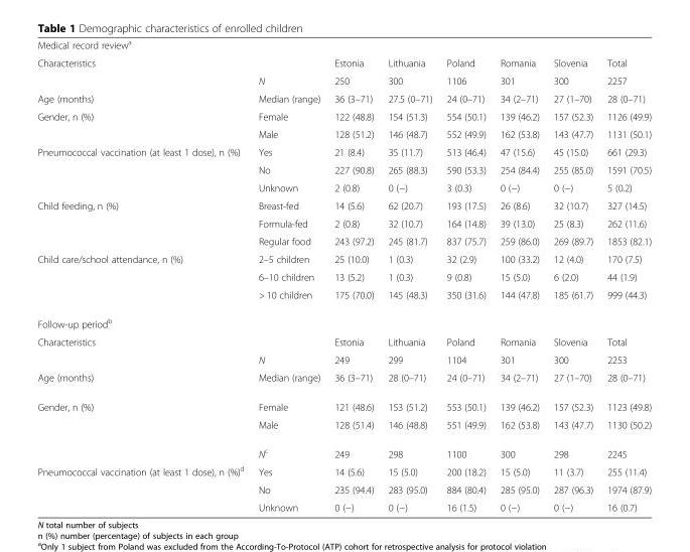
<table><tbody><tr><td colspan="8">Medical record review<sup>a</sup></td></tr><tr><td rowspan="2">Characteristics</td><td></td><td>Estonia</td><td>Lithuania</td><td>Poland</td><td>Romania</td><td>Slovenia</td><td>Total</td></tr><tr><td>N</td><td>250</td><td>300</td><td>1106</td><td>301</td><td>300</td><td>2257</td></tr><tr><td>Age (months)</td><td>Median (range)</td><td>36 (3–71)</td><td>27.5 (0–71)</td><td>24 (0–71)</td><td>34 (2–71)</td><td>27 (1–70)</td><td>28 (0–71)</td></tr><tr><td rowspan="2">Gender, n (%)</td><td>Female</td><td>122 (48.8)</td><td>154 (51.3)</td><td>554 (50.1)</td><td>139 (46.2)</td><td>157 (52.3)</td><td>1126 (49.9)</td></tr><tr><td>Male</td><td>128 (51.2)</td><td>146 (48.7)</td><td>552 (49.9)</td><td>162 (53.8)</td><td>143 (47.7)</td><td>1131 (50.1)</td></tr><tr><td rowspan="3">Pneumococcal vaccination (at least 1 dose), n (%)</td><td>Yes</td><td>21 (8.4)</td><td>35 (11.7)</td><td>513 (46.4)</td><td>47 (15.6)</td><td>45 (15.0)</td><td>661 (29.3)</td></tr><tr><td>No</td><td>227 (90.8)</td><td>265 (88.3)</td><td>590 (53.3)</td><td>254 (84.4)</td><td>255 (85.0)</td><td>1591 (70.5)</td></tr><tr><td>Unknown</td><td>2 (0.8)</td><td>0 (−)</td><td>3 (0.3)</td><td>0 (−)</td><td>0 (−)</td><td>5 (0.2)</td></tr><tr><td rowspan="3">Child feeding, n (%)</td><td>Breast-fed</td><td>14 (5.6)</td><td>62 (20.7)</td><td>193 (17.5)</td><td>26 (8.6)</td><td>32 (10.7)</td><td>327 (14.5)</td></tr><tr><td>Formula-fed</td><td>2 (0.8)</td><td>32 (10.7)</td><td>164 (14.8)</td><td>39 (13.0)</td><td>25 (8.3)</td><td>262 (11.6)</td></tr><tr><td>Regular food</td><td>243 (97.2)</td><td>245 (81.7)</td><td>837 (75.7)</td><td>259 (86.0)</td><td>269 (89.7)</td><td>1853 (82.1)</td></tr><tr><td rowspan="3">Child care/school attendance, n (%)</td><td>2–5 children</td><td>25 (10.0)</td><td>1 (0.3)</td><td>32 (2.9)</td><td>100 (33.2)</td><td>12 (4.0)</td><td>170 (7.5)</td></tr><tr><td>6–10 children</td><td>13 (5.2)</td><td>1 (0.3)</td><td>9 (0.8)</td><td>15 (5.0)</td><td>6 (2.0)</td><td>44 (1.9)</td></tr><tr><td>&gt; 10 children</td><td>175 (70.0)</td><td>145 (48.3)</td><td>350 (31.6)</td><td>144 (47.8)</td><td>185 (61.7)</td><td>999 (44.3)</td></tr><tr><td colspan="8">Follow-up period<sup>b</sup></td></tr><tr><td rowspan="2">Characteristics</td><td></td><td>Estonia</td><td>Lithuania</td><td>Poland</td><td>Romania</td><td>Slovenia</td><td>Total</td></tr><tr><td>N</td><td>249</td><td>299</td><td>1104</td><td>301</td><td>300</td><td>2253</td></tr><tr><td>Age (months)</td><td>Median (range)</td><td>36 (3–71)</td><td>28 (0–71)</td><td>24 (0–71)</td><td>34 (2–71)</td><td>27 (1–70)</td><td>28 (0–71)</td></tr><tr><td rowspan="3">Gender, n (%)</td><td>Female</td><td>121 (48.6)</td><td>153 (51.2)</td><td>553 (50.1)</td><td>139 (46.2)</td><td>157 (52.3)</td><td>1123 (49.8)</td></tr><tr><td>Male</td><td>128 (51.4)</td><td>146 (48.8)</td><td>551 (49.9)</td><td>162 (53.8)</td><td>143 (47.7)</td><td>1130 (50.2)</td></tr><tr><td>N<sup>c</sup></td><td>249</td><td>298</td><td>1100</td><td>300</td><td>298</td><td>2245</td></tr><tr><td rowspan="3">Pneumococcal vaccination (at least 1 dose), n (%)<sup>d</sup></td><td>Yes</td><td>14 (5.6)</td><td>15 (5.0)</td><td>200 (18.2)</td><td>15 (5.0)</td><td>11 (3.7)</td><td>255 (11.4)</td></tr><tr><td>No</td><td>235 (94.4)</td><td>283 (95.0)</td><td>884 (80.4)</td><td>285 (95.0)</td><td>287 (96.3)</td><td>1974 (87.9)</td></tr><tr><td>Unknown</td><td>0 (−)</td><td>0 (−)</td><td>16 (1.5)</td><td>0 (−)</td><td>0 (−)</td><td>16 (0.7)</td></tr></tbody></table>